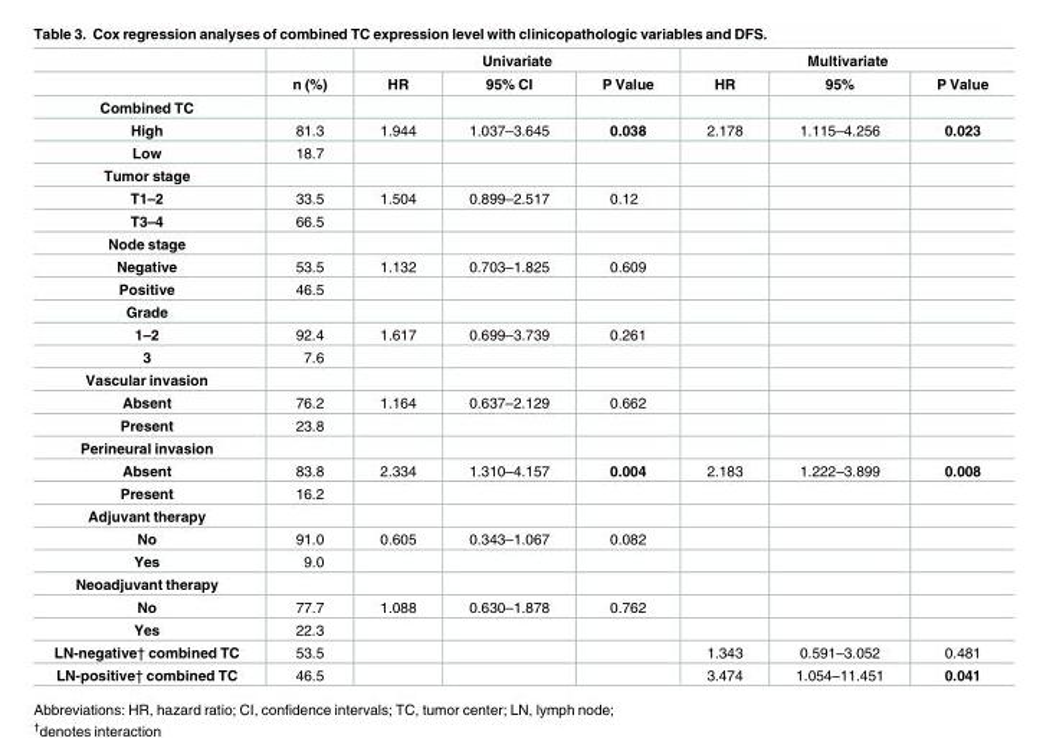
<table><thead><tr><td rowspan="2"></td><td rowspan="2">n (%)</td><td colspan="3">Univariate</td><td colspan="3">Multivariate</td></tr><tr><td>HR</td><td>95% CI</td><td>P Value</td><td>HR</td><td>95%</td><td>P Value</td></tr></thead><tbody><tr><td colspan="8">Combined TC</td></tr><tr><td>High</td><td>81.3</td><td>1.944</td><td>1.037–3.645</td><td>0.038</td><td>2.178</td><td>1.115–4.256</td><td>0.023</td></tr><tr><td>Low</td><td>18.7</td><td></td><td></td><td></td><td></td><td></td><td></td></tr><tr><td colspan="8">Tumor stage</td></tr><tr><td>T1–2</td><td>33.5</td><td>1.504</td><td>0.899–2.517</td><td>0.12</td><td></td><td></td><td></td></tr><tr><td>T3–4</td><td>66.5</td><td></td><td></td><td></td><td></td><td></td><td></td></tr><tr><td colspan="8">Node stage</td></tr><tr><td>Negative</td><td>53.5</td><td>1.132</td><td>0.703–1.825</td><td>0.609</td><td></td><td></td><td></td></tr><tr><td>Positive</td><td>46.5</td><td></td><td></td><td></td><td></td><td></td><td></td></tr><tr><td colspan="8">Grade</td></tr><tr><td>1–2</td><td>92.4</td><td>1.617</td><td>0.699–3.739</td><td>0.261</td><td></td><td></td><td></td></tr><tr><td>3</td><td>7.6</td><td></td><td></td><td></td><td></td><td></td><td></td></tr><tr><td colspan="8">Vascular invasion</td></tr><tr><td>Absent</td><td>76.2</td><td>1.164</td><td>0.637–2.129</td><td>0.662</td><td></td><td></td><td></td></tr><tr><td>Present</td><td>23.8</td><td></td><td></td><td></td><td></td><td></td><td></td></tr><tr><td colspan="8">Perineural invasion</td></tr><tr><td>Absent</td><td>83.8</td><td>2.334</td><td>1.310–4.157</td><td>0.004</td><td>2.183</td><td>1.222–3.899</td><td>0.008</td></tr><tr><td>Present</td><td>16.2</td><td></td><td></td><td></td><td></td><td></td><td></td></tr><tr><td colspan="8">Adjuvant therapy</td></tr><tr><td>No</td><td>91.0</td><td>0.605</td><td>0.343–1.067</td><td>0.082</td><td></td><td></td><td></td></tr><tr><td>Yes</td><td>9.0</td><td></td><td></td><td></td><td></td><td></td><td></td></tr><tr><td colspan="8">Neoadjuvant therapy</td></tr><tr><td>No</td><td>77.7</td><td>1.088</td><td>0.630–1.878</td><td>0.762</td><td></td><td></td><td></td></tr><tr><td>Yes</td><td>22.3</td><td></td><td></td><td></td><td></td><td></td><td></td></tr><tr><td>LN-negative† combined TC</td><td>53.5</td><td></td><td></td><td></td><td>1.343</td><td>0.591–3.052</td><td>0.481</td></tr><tr><td>LN-positive† combined TC</td><td>46.5</td><td></td><td></td><td></td><td>3.474</td><td>1.054–11.451</td><td>0.041</td></tr></tbody></table>